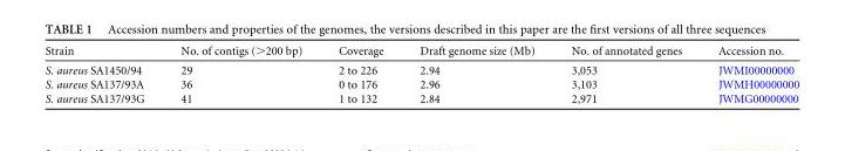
<table><thead><tr><td>Strain</td><td>No. of contigs (&gt;200 bp)</td><td>Coverage</td><td>Draft genome size (Mb)</td><td>No. of annotated genes</td><td>Accession no.</td></tr></thead><tbody><tr><td>S. aureus SA1450/94</td><td>29</td><td>2 to 226</td><td>2.94</td><td>3,053</td><td>JWMI00000000</td></tr><tr><td>S. aureus SA137/93A</td><td>36</td><td>0 to 176</td><td>2.96</td><td>3,103</td><td>JWMH00000000</td></tr><tr><td>S. aureus SA137/93G</td><td>41</td><td>1 to 132</td><td>2.84</td><td>2,971</td><td>JWMG00000000</td></tr></tbody></table>